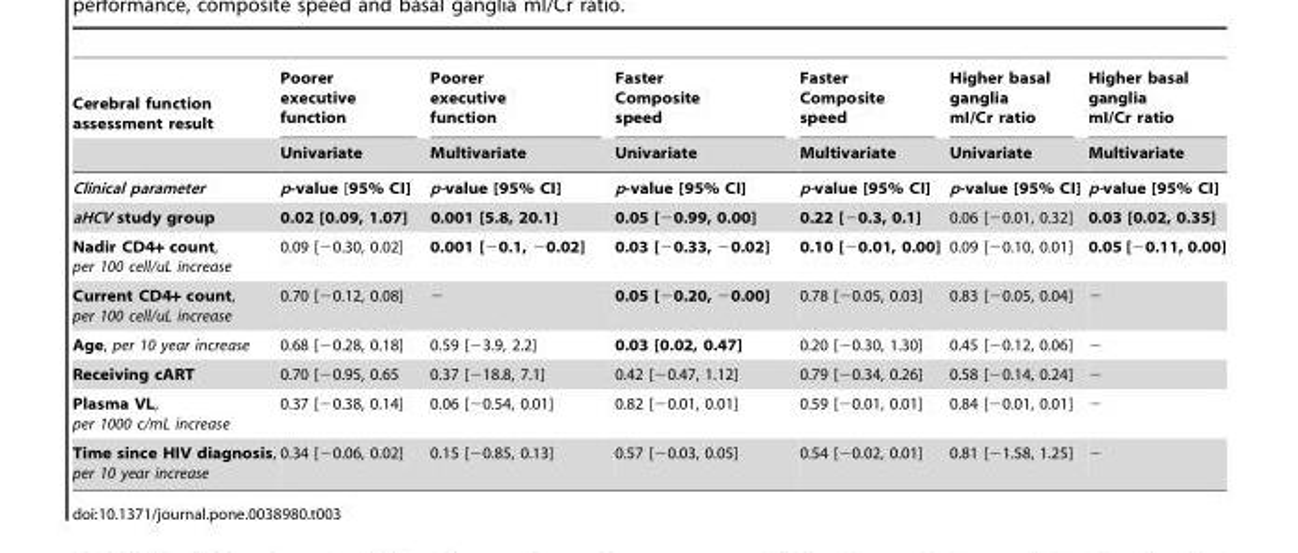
<table><thead><tr><td rowspan="2">Cerebral function assessment result</td><td rowspan="2">Poorer executive function Univariate</td><td rowspan="2">Poorer executive function Multivariate</td><td rowspan="2">Faster Composite speed Univariate</td><td rowspan="2">Faster Composite speed Multivariate</td><td rowspan="2">Higher basal ganglia mI/Cr ratio Univariate</td><td rowspan="2">Higher basal ganglia mI/Cr ratio Multivariate</td></tr><tr></tr></thead><tbody><tr><td>Clinical parameter</td><td>p-value [95% CI]</td><td>p-value [95% CI]</td><td>p-value [95% CI]</td><td>p-value [95% CI]</td><td>p-value [95% CI]</td><td>p-value [95% CI]</td></tr><tr><td>aHCV study group</td><td>0.02 [0.09, 1.07]</td><td>0.001 [5.8, 20.1]</td><td>0.05 [−0.99, 0.00]</td><td>0.22 [−0.3, 0.1]</td><td>0.06 [−0.01, 0.32]</td><td>0.03 [0.02, 0.35]</td></tr><tr><td>Nadir CD4+ count, per 100 cell/uL increase</td><td>0.09 [−0.30, 0.02]</td><td>0.001 [−0.1, −0.02]</td><td>0.03 [−0.33, −0.02]</td><td>0.10 [−0.01, 0.00]</td><td>0.09 [−0.10, 0.01]</td><td>0.05 [−0.11, 0.00]</td></tr><tr><td>Current CD4+ count, per 100 cell/uL increase</td><td>0.70 [−0.12, 0.08]</td><td>−</td><td>0.05 [−0.20, −0.00]</td><td>0.78 [−0.05, 0.03]</td><td>0.83 [−0.05, 0.04]</td><td>−</td></tr><tr><td>Age, per 10 year increase</td><td>0.68 [−0.28, 0.18]</td><td>0.59 [−3.9, 2.2]</td><td>0.03 [0.02, 0.47]</td><td>0.20 [−0.30, 1.30]</td><td>0.45 [−0.12, 0.06]</td><td>−</td></tr><tr><td>Receiving cART</td><td>0.70 [−0.95, 0.65</td><td>0.37 [−18.8, 7.1]</td><td>0.42 [−0.47, 1.12]</td><td>0.79 [−0.34, 0.26]</td><td>0.58 [−0.14, 0.24]</td><td>−</td></tr><tr><td>Plasma VL, per 1000 c/mL increase</td><td>0.37 [−0.38, 0.14]</td><td>0.06 [−0.54, 0.01]</td><td>0.82 [−0.01, 0.01]</td><td>0.59 [−0.01, 0.01]</td><td>0.84 [−0.01, 0.01]</td><td>−</td></tr><tr><td>Time since HIV diagnosis, per 10 year increase</td><td>0.34 [−0.06, 0.02]</td><td>0.15 [−0.85, 0.13]</td><td>0.57 [−0.03, 0.05]</td><td>0.54 [−0.02, 0.01]</td><td>0.81 [−1.58, 1.25]</td><td>−</td></tr></tbody></table>